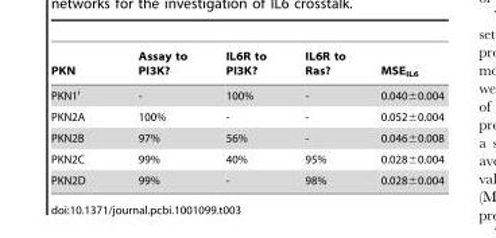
<table><thead><tr><td>PKN</td><td>Assay to PI3K?</td><td>IL6R to PI3K?</td><td>IL6R to Ras?</td><td>MSE<sub>IL6</sub></td></tr></thead><tbody><tr><td>PKN1<sup>i</sup></td><td>-</td><td>100%</td><td>-</td><td>0.040±0.004</td></tr><tr><td>PKN2A</td><td>100%</td><td>-</td><td>-</td><td>0.052±0.004</td></tr><tr><td>PKN2B</td><td>97%</td><td>56%</td><td>-</td><td>0.046±0.008</td></tr><tr><td>PKN2C</td><td>99%</td><td>40%</td><td>95%</td><td>0.028±0.004</td></tr><tr><td>PKN2D</td><td>99%</td><td>-</td><td>98%</td><td>0.028±0.004</td></tr></tbody></table>